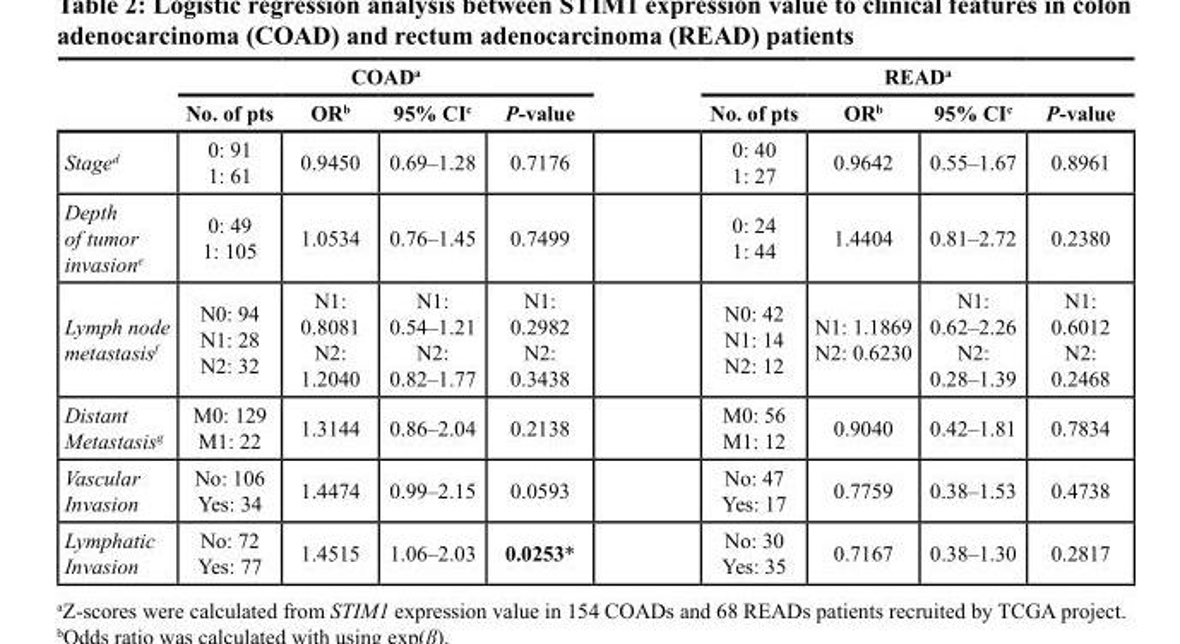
<table><thead><tr><td rowspan="2"></td><td colspan="4">COAD<sup>a</sup></td><td colspan="4">READ<sup>a</sup></td></tr><tr><td>No. of pts</td><td>OR<sup>b</sup></td><td>95% CI<sup>c</sup></td><td>P-value</td><td>No. of pts</td><td>OR<sup>b</sup></td><td>95% CI<sup>c</sup></td><td>P-value</td></tr></thead><tbody><tr><td>Stage<sup>d</sup></td><td>0: 91 1: 61</td><td>0.9450</td><td>0.69–1.28</td><td>0.7176</td><td>0: 40 1: 27</td><td>0.9642</td><td>0.55–1.67</td><td>0.8961</td></tr><tr><td>Depth of tumor invasion<sup>e</sup></td><td>0: 49 1: 105</td><td>1.0534</td><td>0.76–1.45</td><td>0.7499</td><td>0: 24 1: 44</td><td>1.4404</td><td>0.81–2.72</td><td>0.2380</td></tr><tr><td>Lymph node metastasis<sup>f</sup></td><td>N0: 94 N1: 28 N2: 32</td><td>N1: 0.8081 N2: 1.2040</td><td>N1: 0.54–1.21 N2: 0.82–1.77</td><td>N1: 0.2982 N2: 0.3438</td><td>N0: 42 N1: 14 N2: 12</td><td>N1: 1.1869 N2: 0.6230</td><td>N1: 0.62–2.26 N2: 0.28–1.39</td><td>N1: 0.6012 N2: 0.2468</td></tr><tr><td>Distant Metastasis<sup>g</sup></td><td>M0: 129 M1: 22</td><td>1.3144</td><td>0.86–2.04</td><td>0.2138</td><td>M0: 56 M1: 12</td><td>0.9040</td><td>0.42–1.81</td><td>0.7834</td></tr><tr><td>Vascular Invasion</td><td>No: 106 Yes: 34</td><td>1.4474</td><td>0.99–2.15</td><td>0.0593</td><td>No: 47 Yes: 17</td><td>0.7759</td><td>0.38–1.53</td><td>0.4738</td></tr><tr><td>Lymphatic Invasion</td><td>No: 72 Yes: 77</td><td>1.4515</td><td>1.06–2.03</td><td>0.0253*</td><td>No: 30 Yes: 35</td><td>0.7167</td><td>0.38–1.30</td><td>0.2817</td></tr></tbody></table>